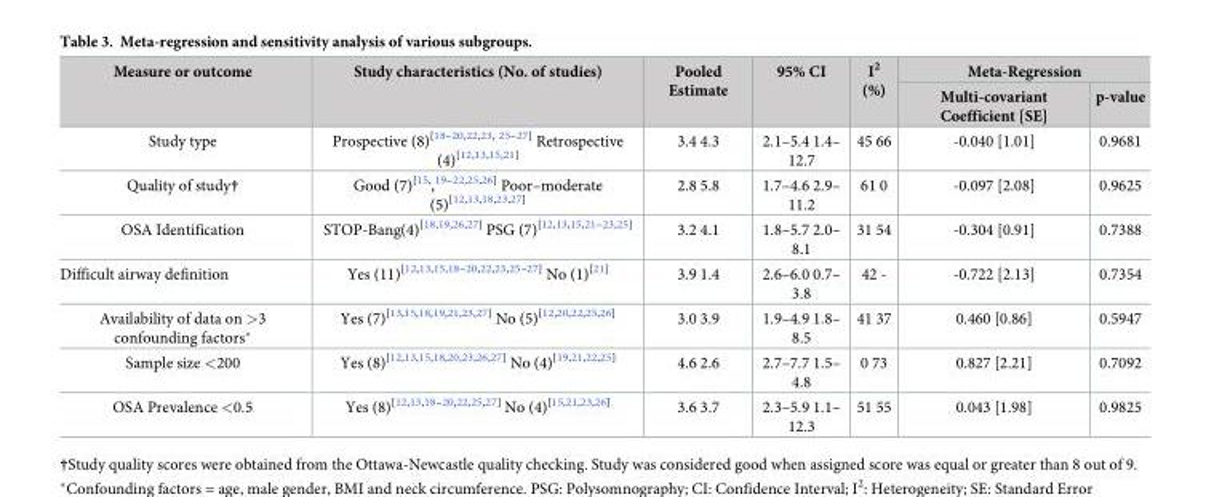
<table><thead><tr><td rowspan="2">Measure or outcome</td><td rowspan="2">Study characteristics (No. of studies)</td><td rowspan="2">Pooled Estimate</td><td rowspan="2">95% CI</td><td rowspan="2">I<sup>2</sup> (%)</td><td colspan="2">Meta-Regression</td></tr><tr><td>Multi-covariant Coefficient [SE]</td><td>p-value</td></tr></thead><tbody><tr><td>Study type</td><td>Prospective (8)<sup>[18–20,22,23, 25–27]</sup> Retrospective (4)<sup>[12,13,15,21]</sup></td><td>3.4 4.3</td><td>2.1–5.4 1.4– 12.7</td><td>45 66</td><td>-0.040 [1.01]</td><td>0.9681</td></tr><tr><td>Quality of study†</td><td>Good (7)<sup>[15,</sup>,<sup>19–22,25,26]</sup> Poor–moderate (5)<sup>[12,13,18,23,27]</sup></td><td>2.8 5.8</td><td>1.7–4.6 2.9– 11.2</td><td>61 0</td><td>-0.097 [2.08]</td><td>0.9625</td></tr><tr><td>OSA Identification</td><td>STOP-Bang(4)<sup>[18,19,26,27]</sup> PSG (7)<sup>[12,13,15,21–23,25]</sup></td><td>3.2 4.1</td><td>1.8–5.7 2.0– 8.1</td><td>31 54</td><td>-0.304 [0.91]</td><td>0.7388</td></tr><tr><td>Difficult airway definition</td><td>Yes (11)<sup>[12,13,15,18–20,22,23,25–27]</sup> No (1)<sup>[21]</sup></td><td>3.9 1.4</td><td>2.6–6.0 0.7– 3.8</td><td>42 -</td><td>-0.722 [2.13]</td><td>0.7354</td></tr><tr><td>Availability of data on &gt;3 confounding factors*</td><td>Yes (7)<sup>[13,15,18,19,21,23,27]</sup> No (5)<sup>[12,20,22,25,26]</sup></td><td>3.0 3.9</td><td>1.9–4.9 1.8– 8.5</td><td>41 37</td><td>0.460 [0.86]</td><td>0.5947</td></tr><tr><td>Sample size &lt;200</td><td>Yes (8)<sup>[12,13,15,18,20,23,26,27]</sup> No (4)<sup>[19,21,22,25]</sup></td><td>4.6 2.6</td><td>2.7–7.7 1.5– 4.8</td><td>0 73</td><td>0.827 [2.21]</td><td>0.7092</td></tr><tr><td>OSA Prevalence &lt;0.5</td><td>Yes (8)<sup>[12,13,18–20,22,25,27]</sup> No (4)<sup>[15,21,23,26]</sup></td><td>3.6 3.7</td><td>2.3–5.9 1.1– 12.3</td><td>51 55</td><td>0.043 [1.98]</td><td>0.9825</td></tr></tbody></table>